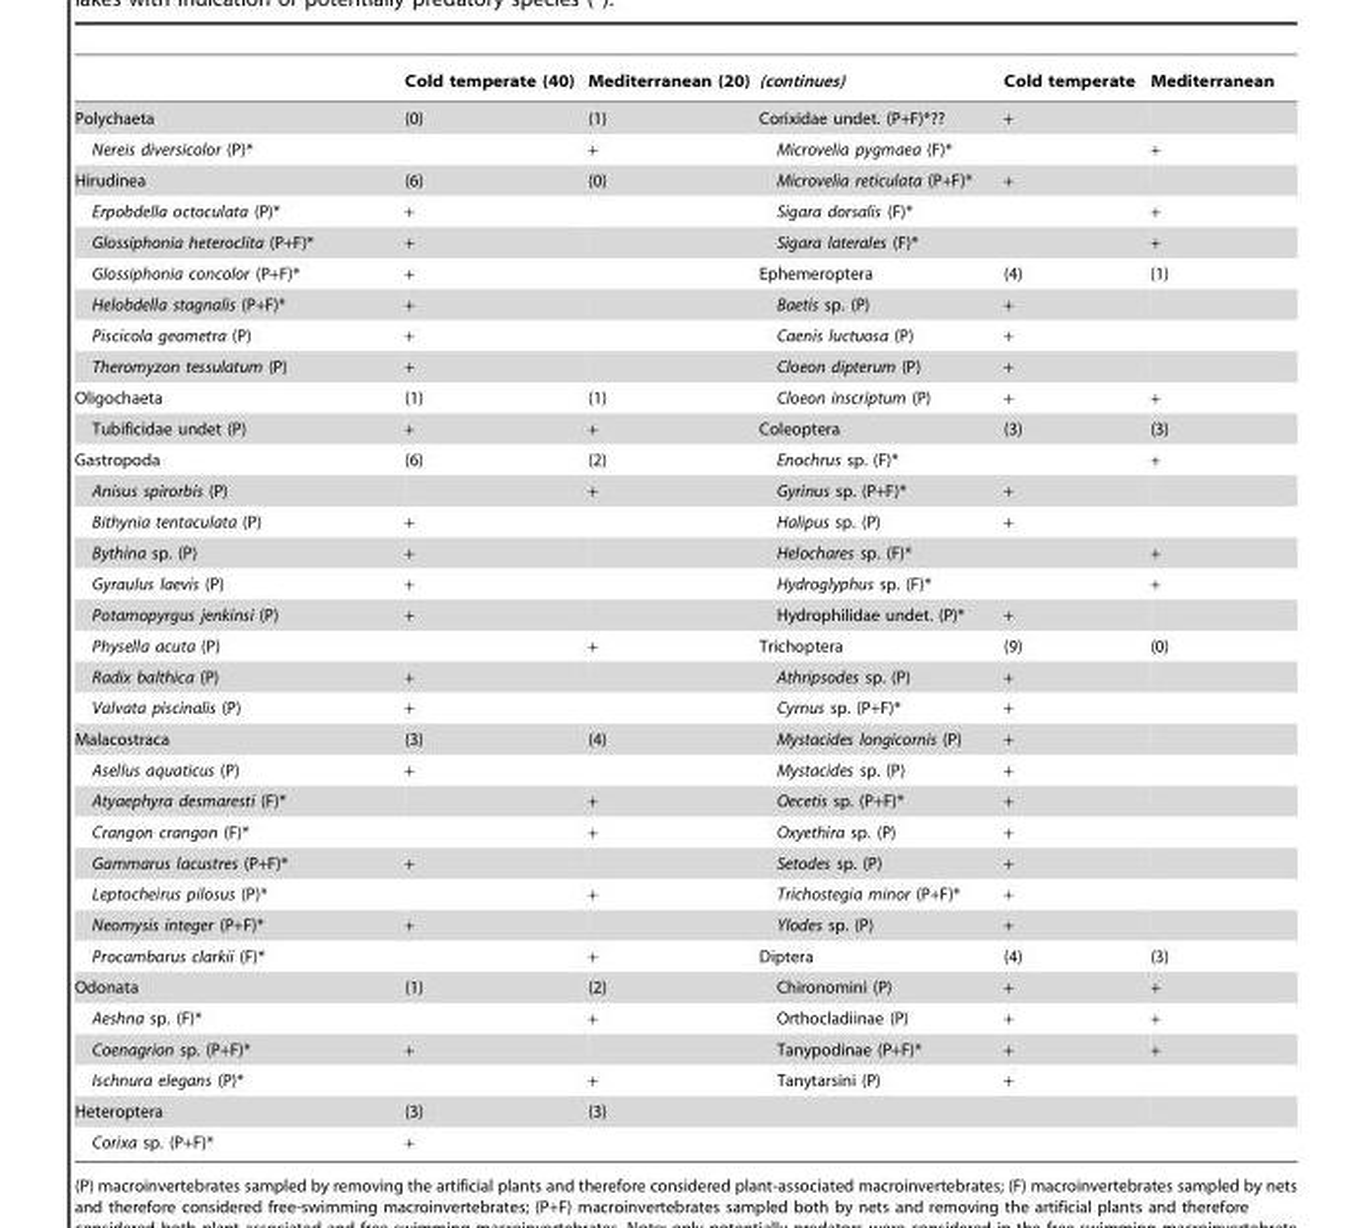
<table><thead><tr><td></td><td>Cold temperate (40)</td><td>Mediterranean (20)</td><td>(continues)</td><td>Cold temperate</td><td>Mediterranean</td></tr></thead><tbody><tr><td>Polychaeta</td><td>(0)</td><td>(1)</td><td>Corixidae undet. (P+F)*??</td><td>+</td><td></td></tr><tr><td>Nereis diversicolor (P)*</td><td></td><td>+</td><td>Microvelia pygmaea (F)*</td><td></td><td>+</td></tr><tr><td>Hirudinea</td><td>(6)</td><td>(0)</td><td>Microvelia reticulata (P+F)*</td><td>+</td><td></td></tr><tr><td>Erpobdella octoculata (P)*</td><td>+</td><td></td><td>Sigara dorsalis (F)*</td><td></td><td>+</td></tr><tr><td>Glossiphonia heteroclita (P+F)*</td><td>+</td><td></td><td>Sigara laterales (F)*</td><td></td><td>+</td></tr><tr><td>Glossiphonia concolor (P+F)*</td><td>+</td><td></td><td>Ephemeroptera</td><td>(4)</td><td>(1)</td></tr><tr><td>Helobdella stagnalis (P+F)*</td><td>+</td><td></td><td>Baetis sp. (P)</td><td>+</td><td></td></tr><tr><td>Piscicola geometra (P)</td><td>+</td><td></td><td>Caenis luctuosa (P)</td><td>+</td><td></td></tr><tr><td>Theromyzon tessulatum (P)</td><td>+</td><td></td><td>Cloeon dipterum (P)</td><td>+</td><td></td></tr><tr><td>Oligochaeta</td><td>(1)</td><td>(1)</td><td>Cloeon inscriptum (P)</td><td>+</td><td>+</td></tr><tr><td>Tubificidae undet (P)</td><td>+</td><td>+</td><td>Coleoptera</td><td>(3)</td><td>(3)</td></tr><tr><td>Gastropoda</td><td>(6)</td><td>(2)</td><td>Enochrus sp. (F)*</td><td></td><td>+</td></tr><tr><td>Anisus spirorbis (P)</td><td></td><td>+</td><td>Gyrinus sp. (P+F)*</td><td>+</td><td></td></tr><tr><td>Bithynia tentaculata (P)</td><td>+</td><td></td><td>Halipus sp. (P)</td><td>+</td><td></td></tr><tr><td>Bythina sp. (P)</td><td>+</td><td></td><td>Helochares sp. (F)*</td><td></td><td>+</td></tr><tr><td>Gyraulus laevis (P)</td><td>+</td><td></td><td>Hydroglyphus sp. (F)*</td><td></td><td>+</td></tr><tr><td>Potamopyrgus jenkinsi (P)</td><td>+</td><td></td><td>Hydrophilidae undet. (P)*</td><td>+</td><td></td></tr><tr><td>Physella acuta (P)</td><td></td><td>+</td><td>Trichoptera</td><td>(9)</td><td>(0)</td></tr><tr><td>Radix balthica (P)</td><td>+</td><td></td><td>Athripsodes sp. (P)</td><td>+</td><td></td></tr><tr><td>Valvata piscinalis (P)</td><td>+</td><td></td><td>Cyrnus sp. (P+F)*</td><td>+</td><td></td></tr><tr><td>Malacostraca</td><td>(3)</td><td>(4)</td><td>Mystacides longicornis (P)</td><td>+</td><td></td></tr><tr><td>Asellus aquaticus (P)</td><td>+</td><td></td><td>Mystacides sp. (P)</td><td>+</td><td></td></tr><tr><td>Atyaephyra desmaresti (F)*</td><td></td><td>+</td><td>Oecetis sp. (P+F)*</td><td>+</td><td></td></tr><tr><td>Crangon crangon (F)*</td><td></td><td>+</td><td>Oxyethira sp. (P)</td><td>+</td><td></td></tr><tr><td>Gammarus lacustres (P+F)*</td><td>+</td><td></td><td>Setodes sp. (P)</td><td>+</td><td></td></tr><tr><td>Leptocheirus pilosus (P)*</td><td></td><td>+</td><td>Trichostegia minor (P+F)*</td><td>+</td><td></td></tr><tr><td>Neomysis integer (P+F)*</td><td>+</td><td></td><td>Ylodes sp. (P)</td><td>+</td><td></td></tr><tr><td>Procambarus clarkii (F)*</td><td></td><td>+</td><td>Diptera</td><td>(4)</td><td>(3)</td></tr><tr><td>Odonata</td><td>(1)</td><td>(2)</td><td>Chironomini (P)</td><td>+</td><td>+</td></tr><tr><td>Aeshna sp. (F)*</td><td></td><td>+</td><td>Orthocladiinae (P)</td><td>+</td><td>+</td></tr><tr><td>Coenagrion sp. (P+F)*</td><td>+</td><td></td><td>Tanypodinae (P+F)*</td><td>+</td><td>+</td></tr><tr><td>Ischnura elegans (P)*</td><td></td><td>+</td><td>Tanytarsini (P)</td><td>+</td><td></td></tr><tr><td>Heteroptera</td><td>(3)</td><td>(3)</td><td></td><td></td><td></td></tr><tr><td>Corixa sp. (P+F)*</td><td>+</td><td></td><td></td><td></td><td></td></tr></tbody></table>